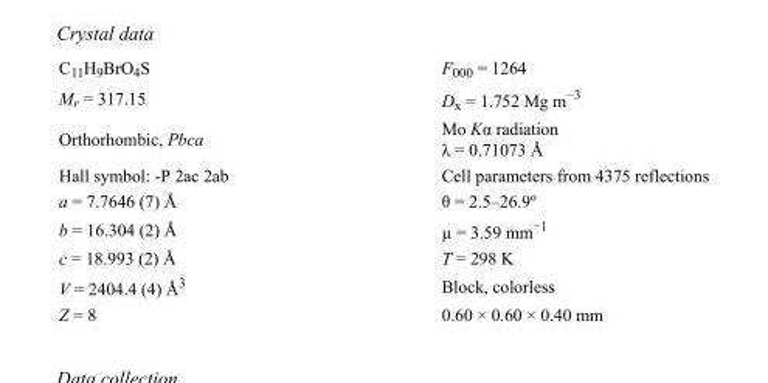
<table><tbody><tr><td>C<sub>11</sub>H<sub>9</sub>BrO<sub>4</sub>S</td><td>F000 = 1264</td></tr><tr><td>M<sub>r</sub> = 317.15</td><td>D<sub>x</sub> = 1.752 Mg m<sup>−3</sup></td></tr><tr><td>Orthorhombic, Pbca</td><td>Mo Kα radiation λ = 0.71073 Å</td></tr><tr><td>Hall symbol: -P 2ac 2ab</td><td>Cell parameters from 4375 reflections</td></tr><tr><td>a = 7.7646 (7) Å</td><td>θ = 2.5–26.9º</td></tr><tr><td>b = 16.304 (2) Å</td><td>µ = 3.59 mm<sup>−1</sup></td></tr><tr><td>c = 18.993 (2) Å</td><td>T = 298 K</td></tr><tr><td>V = 2404.4 (4) Å<sup>3</sup></td><td>Block, colorless</td></tr><tr><td>Z = 8</td><td>0.60 × 0.60 × 0.40 mm</td></tr></tbody></table>